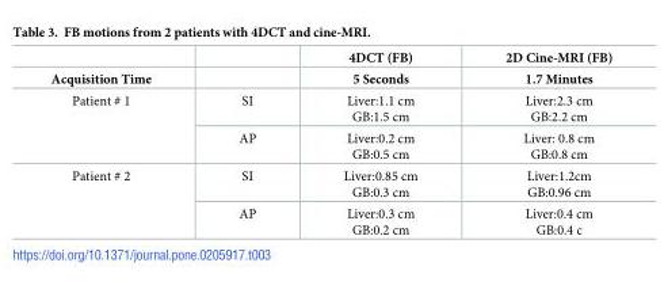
<table><thead><tr><td rowspan="2">Acquisition Time</td><td rowspan="2"></td><td rowspan="2">4DCT (FB) 5 Seconds</td><td rowspan="2">2D Cine-MRI (FB) 1.7 Minutes</td></tr><tr></tr></thead><tbody><tr><td rowspan="2">Patient # 1</td><td>SI</td><td>Liver:1.1 cm GB:1.5 cm</td><td>Liver:2.3 cm GB:2.2 cm</td></tr><tr><td>AP</td><td>Liver:0.2 cm GB:0.5 cm</td><td>Liver: 0.8 cm GB:0.8 cm</td></tr><tr><td rowspan="2">Patient # 2</td><td>SI</td><td>Liver:0.85 cm GB:0.3 cm</td><td>Liver:1.2cm GB:0.96 cm</td></tr><tr><td>AP</td><td>Liver:0.3 cm GB:0.2 cm</td><td>Liver:0.4 cm GB:0.4 c</td></tr></tbody></table>